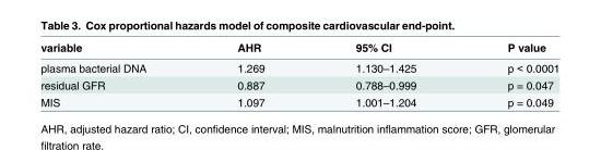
<table><thead><tr><td>variable</td><td>AHR</td><td>95% CI</td><td>P value</td></tr></thead><tbody><tr><td>plasma bacterial DNA</td><td>1.269</td><td>1.130–1.425</td><td>p &lt; 0.0001</td></tr><tr><td>residual GFR</td><td>0.887</td><td>0.788–0.999</td><td>p = 0.047</td></tr><tr><td>MIS</td><td>1.097</td><td>1.001–1.204</td><td>p = 0.049</td></tr></tbody></table>